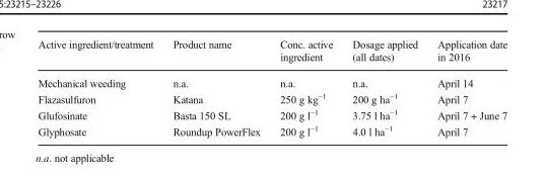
<table><thead><tr><td>Active ingredient/treatment</td><td>Product name</td><td>Conc. active ingredient</td><td>Dosage applied (all dates)</td><td>Application date in 2016</td></tr></thead><tbody><tr><td>Mechanical weeding</td><td>n.a.</td><td>n.a.</td><td>n.a.</td><td>April 14</td></tr><tr><td>Flazasulfuron</td><td>Katana</td><td>250 g kg<sup>−1</sup></td><td>200 g ha<sup>−1</sup></td><td>April 7</td></tr><tr><td>Glufosinate</td><td>Basta 150 SL</td><td>200 g l<sup>−1</sup></td><td>3.75 l ha<sup>−1</sup></td><td>April 7 + June 7</td></tr><tr><td>Glyphosate</td><td>Roundup PowerFlex</td><td>200 g l<sup>−1</sup></td><td>4.0 l ha<sup>−1</sup></td><td>April 7</td></tr></tbody></table>